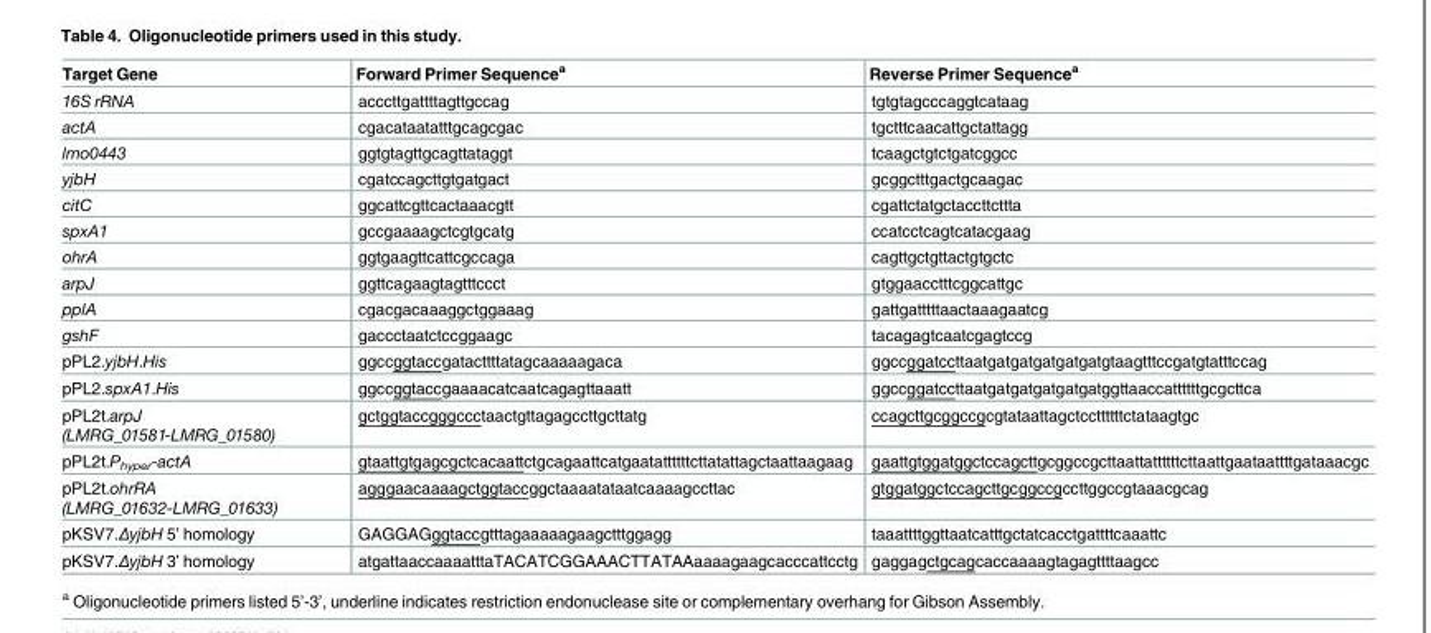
<table><thead><tr><td>Target Gene</td><td>Forward Primer Sequence<sup>a</sup></td><td>Reverse Primer Sequence<sup>a</sup></td></tr></thead><tbody><tr><td>16S rRNA</td><td>acccttgattttagttgccag</td><td>tgtgtagcccaggtcataag</td></tr><tr><td>actA</td><td>cgacataatatttgcagcgac</td><td>tgctttcaacattgctattagg</td></tr><tr><td>lmo0443</td><td>ggtgtagttgcagttataggt</td><td>tcaagctgtctgatcggcc</td></tr><tr><td>yjbH</td><td>cgatccagcttgtgatgact</td><td>gcggctttgactgcaagac</td></tr><tr><td>citC</td><td>ggcattcgttcactaaacgtt</td><td>cgattctatgctaccttcttta</td></tr><tr><td>spxA1</td><td>gccgaaaagctcgtgcatg</td><td>ccatcctcagtcatacgaag</td></tr><tr><td>ohrA</td><td>ggtgaagttcattcgccaga</td><td>cagttgctgttactgtgctc</td></tr><tr><td>arpJ</td><td>ggttcagaagtagtttccct</td><td>gtggaacctttcggcattgc</td></tr><tr><td>pplA</td><td>cgacgacaaaggctggaaag</td><td>gattgatttttaactaaagaatcg</td></tr><tr><td>gshF</td><td>gaccctaatctccggaagc</td><td>tacagagtcaatcgagtccg</td></tr><tr><td>pPL2.yjbH.His</td><td>ggccggtaccgatacttttatagcaaaaagaca</td><td>ggccggatccttaatgatgatgatgatgatgtaagtttccgatgtatttccag</td></tr><tr><td>pPL2.spxA1.His</td><td>ggccggtaccgaaaacatcaatcagagttaaatt</td><td>ggccggatccttaatgatgatgatgatgatggttaaccattttttgcgcttca</td></tr><tr><td>pPL2t.arpJ (LMRG_01581-LMRG_01580)</td><td>gctggtaccgggccctaactgttagagccttgcttatg</td><td>ccagcttgcggccgcgtataattagctccttttttctataagtgc</td></tr><tr><td>pPL2t.P<sub>hyper</sub>-actA</td><td>gtaattgtgagcgctcacaattctgcagaattcatgaatattttttcttatattagctaattaagaag</td><td>gaattgtggatggctccagcttgcggccgcttaattattttttcttaattgaataattttgataaacgc</td></tr><tr><td>pPL2t.ohrRA (LMRG_01632-LMRG_01633)</td><td>agggaacaaaagctggtaccggctaaaatataatcaaaagccttac</td><td>gtggatggctccagcttgcggccgccttggccgtaaacgcag</td></tr><tr><td>pKSV7.ΔyjbH 5’ homology</td><td>GAGGAGggtaccgtttagaaaaagaagctttggagg</td><td>taaattttggttaatcatttgctatcacctgattttcaaattc</td></tr><tr><td>pKSV7.ΔyjbH 3’ homology</td><td>atgattaaccaaaatttaTACATCGGAAACTTATAAaaaagaagcacccattcctg</td><td>gaggagctgcagcaccaaaagtagagttttaagcc</td></tr></tbody></table>